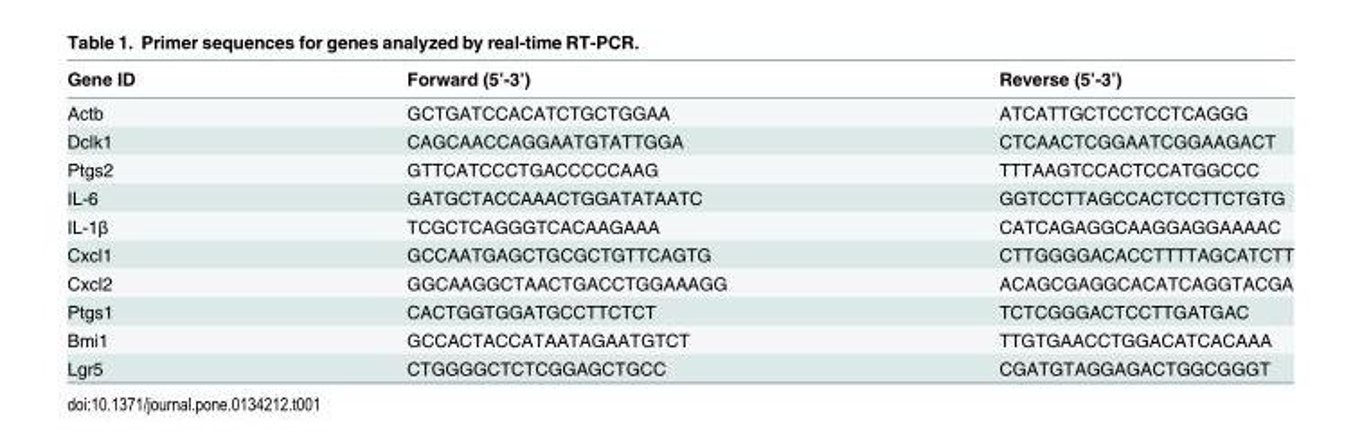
<table><thead><tr><td>Gene ID</td><td>Forward (5’-3’)</td><td>Reverse (5’-3’)</td></tr></thead><tbody><tr><td>Actb</td><td>GCTGATCCACATCTGCTGGAA</td><td>ATCATTGCTCCTCCTCAGGG</td></tr><tr><td>Dclk1</td><td>CAGCAACCAGGAATGTATTGGA</td><td>CTCAACTCGGAATCGGAAGACT</td></tr><tr><td>Ptgs2</td><td>GTTCATCCCTGACCCCCAAG</td><td>TTTAAGTCCACTCCATGGCCC</td></tr><tr><td>IL-6</td><td>GATGCTACCAAACTGGATATAATC</td><td>GGTCCTTAGCCACTCCTTCTGTG</td></tr><tr><td>IL-1β</td><td>TCGCTCAGGGTCACAAGAAA</td><td>CATCAGAGGCAAGGAGGAAAAC</td></tr><tr><td>Cxcl1</td><td>GCCAATGAGCTGCGCTGTTCAGTG</td><td>CTTGGGGACACCTTTTAGCATCTT</td></tr><tr><td>Cxcl2</td><td>GGCAAGGCTAACTGACCTGGAAAGG</td><td>ACAGCGAGGCACATCAGGTACGA</td></tr><tr><td>Ptgs1</td><td>CACTGGTGGATGCCTTCTCT</td><td>TCTCGGGACTCCTTGATGAC</td></tr><tr><td>Bmi1</td><td>GCCACTACCATAATAGAATGTCT</td><td>TTGTGAACCTGGACATCACAAA</td></tr><tr><td>Lgr5</td><td>CTGGGGCTCTCGGAGCTGCC</td><td>CGATGTAGGAGACTGGCGGGT</td></tr></tbody></table>